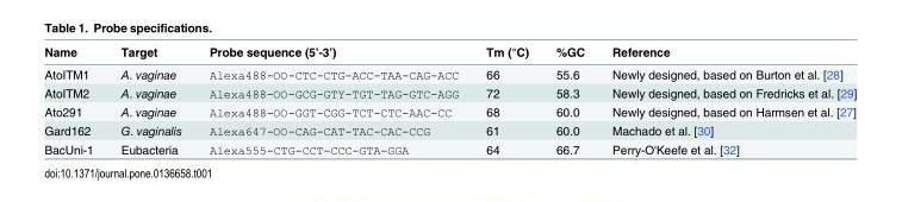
<table><thead><tr><td>Name</td><td>Target</td><td>Probe sequence (5’-3’)</td><td>Tm (°C)</td><td>%GC</td><td>Reference</td></tr></thead><tbody><tr><td>AtoITM1</td><td>A. vaginae</td><td>Alexa488-OO-CTC-CTG-ACC-TAA-CAG-ACC</td><td>66</td><td>55.6</td><td>Newly designed, based on Burton et al. [28]</td></tr><tr><td>AtoITM2</td><td>A. vaginae</td><td>Alexa488-OO-GCG-GTY-TGT-TAG-GTC-AGG</td><td>72</td><td>58.3</td><td>Newly designed, based on Fredricks et al. [29]</td></tr><tr><td>Ato291</td><td>A. vaginae</td><td>Alexa488-OO-GGT-CGG-TCT-CTC-AAC-CC</td><td>68</td><td>60.0</td><td>Newly designed, based on Harmsen et al. [27]</td></tr><tr><td>Gard162</td><td>G. vaginalis</td><td>Alexa647-OO-CAG-CAT-TAC-CAC-CCG</td><td>61</td><td>60.0</td><td>Machado et al. [30]</td></tr><tr><td>BacUni-1</td><td>Eubacteria</td><td>Alexa555-CTG-CCT-CCC-GTA-GGA</td><td>64</td><td>66.7</td><td>Perry-O&#x27;Keefe et al. [32]</td></tr></tbody></table>